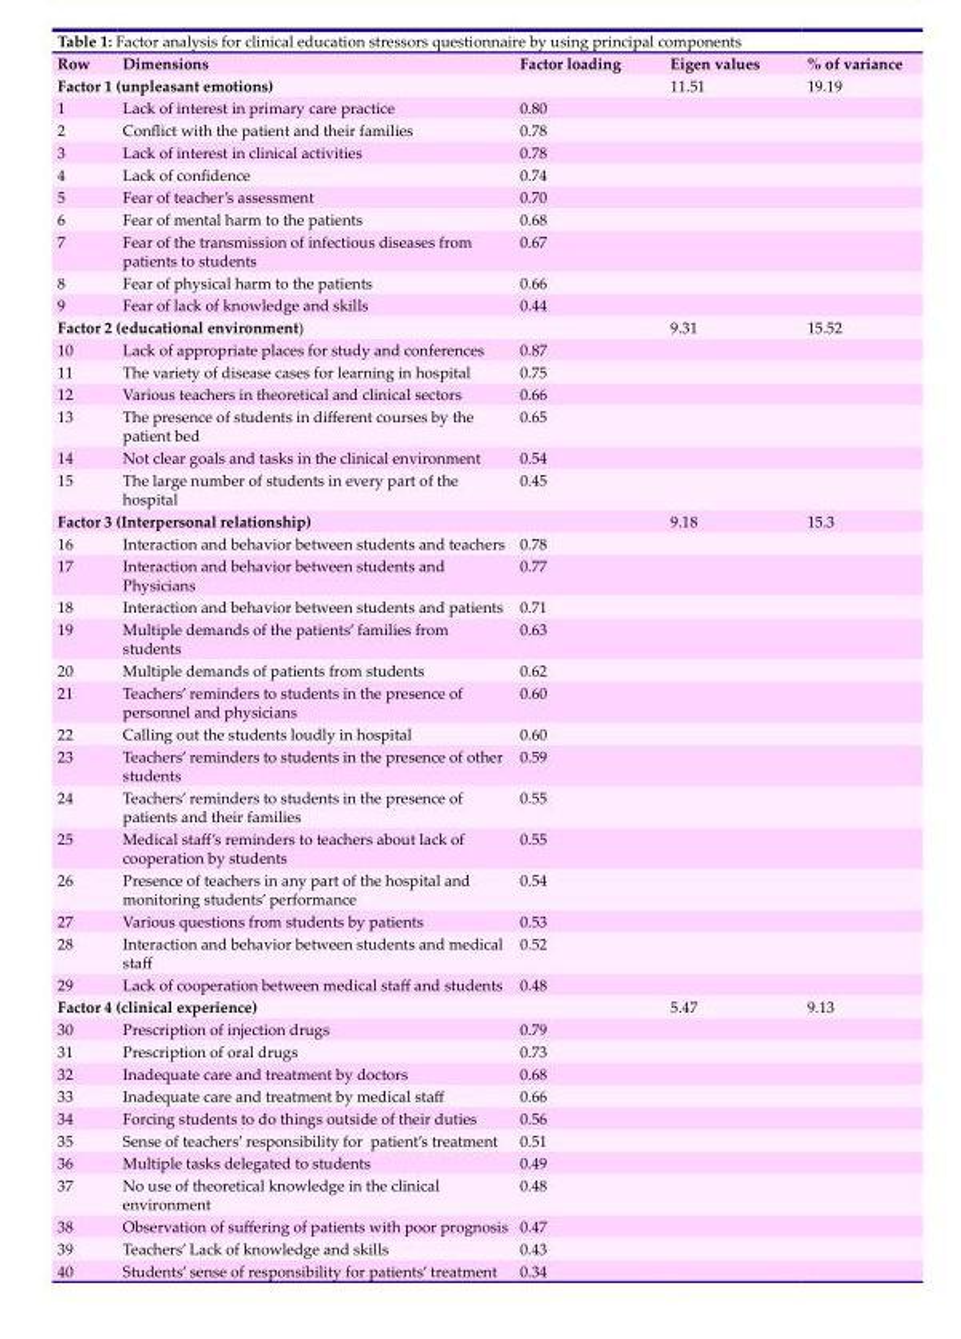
<table><thead><tr><td>Row</td><td>Dimensions</td><td>Factor loading</td><td>Eigen values</td><td>% of variance</td></tr></thead><tbody><tr><td colspan="2">Factor 1 (unpleasant emotions)</td><td></td><td>11.51</td><td>19.19</td></tr><tr><td>1</td><td>Lack of interest in primary care practice</td><td>0.80</td><td></td><td></td></tr><tr><td>2</td><td>Conflict with the patient and their families</td><td>0.78</td><td></td><td></td></tr><tr><td>3</td><td>Lack of interest in clinical activities</td><td>0.78</td><td></td><td></td></tr><tr><td>4</td><td>Lack of confidence</td><td>0.74</td><td></td><td></td></tr><tr><td>5</td><td>Fear of teacher’s assessment</td><td>0.70</td><td></td><td></td></tr><tr><td>6</td><td>Fear of mental harm to the patients</td><td>0.68</td><td></td><td></td></tr><tr><td>7</td><td>Fear of the transmission of infectious diseases from patients to students</td><td>0.67</td><td></td><td></td></tr><tr><td>8</td><td>Fear of physical harm to the patients</td><td>0.66</td><td></td><td></td></tr><tr><td>9</td><td>Fear of lack of knowledge and skills</td><td>0.44</td><td></td><td></td></tr><tr><td colspan="2">Factor 2 (educational environment)</td><td></td><td>9.31</td><td>15.52</td></tr><tr><td>10</td><td>Lack of appropriate places for study and conferences</td><td>0.87</td><td></td><td></td></tr><tr><td>11</td><td>The variety of disease cases for learning in hospital</td><td>0.75</td><td></td><td></td></tr><tr><td>12</td><td>Various teachers in theoretical and clinical sectors</td><td>0.66</td><td></td><td></td></tr><tr><td>13</td><td>The presence of students in different courses by the patient bed</td><td>0.65</td><td></td><td></td></tr><tr><td>14</td><td>Not clear goals and tasks in the clinical environment</td><td>0.54</td><td></td><td></td></tr><tr><td>15</td><td>The large number of students in every part of the hospital</td><td>0.45</td><td></td><td></td></tr><tr><td colspan="2">Factor 3 (Interpersonal relationship)</td><td></td><td>9.18</td><td>15.3</td></tr><tr><td>16</td><td>Interaction and behavior between students and teachers</td><td>0.78</td><td></td><td></td></tr><tr><td>17</td><td>Interaction and behavior between students and Physicians</td><td>0.77</td><td></td><td></td></tr><tr><td>18</td><td>Interaction and behavior between students and patients</td><td>0.71</td><td></td><td></td></tr><tr><td>19</td><td>Multiple demands of the patients’ families from students</td><td>0.63</td><td></td><td></td></tr><tr><td>20</td><td>Multiple demands of patients from students</td><td>0.62</td><td></td><td></td></tr><tr><td>21</td><td>Teachers’ reminders to students in the presence of personnel and physicians</td><td>0.60</td><td></td><td></td></tr><tr><td>22</td><td>Calling out the students loudly in hospital</td><td>0.60</td><td></td><td></td></tr><tr><td>23</td><td>Teachers’ reminders to students in the presence of other students</td><td>0.59</td><td></td><td></td></tr><tr><td>24</td><td>Teachers’ reminders to students in the presence of patients and their families</td><td>0.55</td><td></td><td></td></tr><tr><td>25</td><td>Medical staff’s reminders to teachers about lack of cooperation by students</td><td>0.55</td><td></td><td></td></tr><tr><td>26</td><td>Presence of teachers in any part of the hospital and monitoring students’ performance</td><td>0.54</td><td></td><td></td></tr><tr><td>27</td><td>Various questions from students by patients</td><td>0.53</td><td></td><td></td></tr><tr><td>28</td><td>Interaction and behavior between students and medical staff</td><td>0.52</td><td></td><td></td></tr><tr><td>29</td><td>Lack of cooperation between medical staff and students</td><td>0.48</td><td></td><td></td></tr><tr><td colspan="2">Factor 4 (clinical experience)</td><td></td><td>5.47</td><td>9.13</td></tr><tr><td>30</td><td>Prescription of injection drugs</td><td>0.79</td><td></td><td></td></tr><tr><td>31</td><td>Prescription of oral drugs</td><td>0.73</td><td></td><td></td></tr><tr><td>32</td><td>Inadequate care and treatment by doctors</td><td>0.68</td><td></td><td></td></tr><tr><td>33</td><td>Inadequate care and treatment by medical staff</td><td>0.66</td><td></td><td></td></tr><tr><td>34</td><td>Forcing students to do things outside of their duties</td><td>0.56</td><td></td><td></td></tr><tr><td>35</td><td>Sense of teachers’ responsibility for patient’s treatment</td><td>0.51</td><td></td><td></td></tr><tr><td>36</td><td>Multiple tasks delegated to students</td><td>0.49</td><td></td><td></td></tr><tr><td>37</td><td>No use of theoretical knowledge in the clinical environment</td><td>0.48</td><td></td><td></td></tr><tr><td>38</td><td>Observation of suffering of patients with poor prognosis</td><td>0.47</td><td></td><td></td></tr><tr><td>39</td><td>Teachers’ Lack of knowledge and skills</td><td>0.43</td><td></td><td></td></tr><tr><td>40</td><td>Students’ sense of responsibility for patients’ treatment</td><td>0.34</td><td></td><td></td></tr></tbody></table>